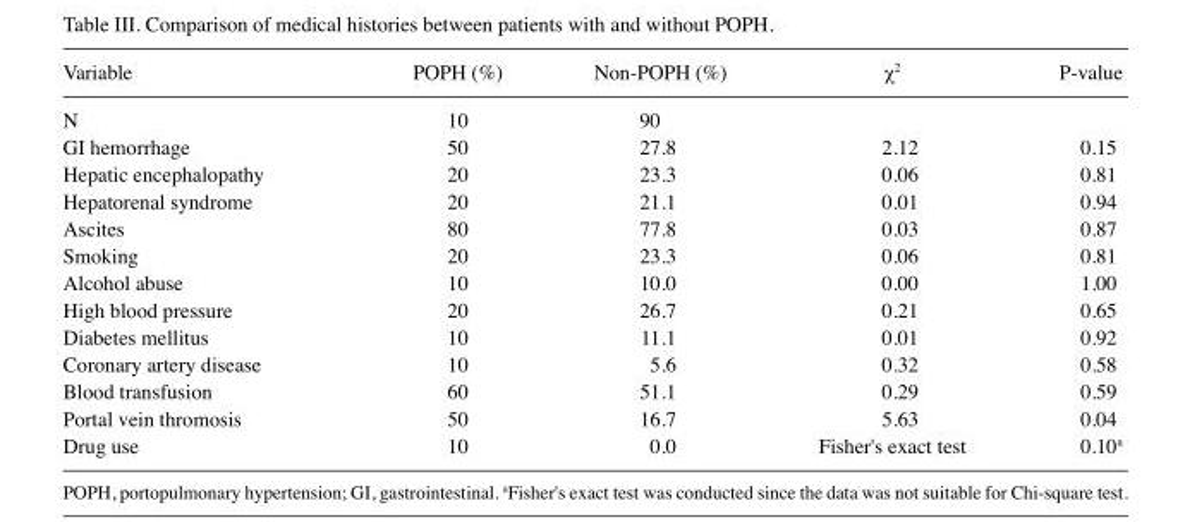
<table><thead><tr><td>Variable</td><td>POPH (%)</td><td>Non-POPH (%)</td><td>χ<sup>2</sup></td><td>P-value</td></tr></thead><tbody><tr><td>N</td><td>10</td><td>90</td><td></td><td></td></tr><tr><td>GI hemorrhage</td><td>50</td><td>27.8</td><td>2.12</td><td>0.15</td></tr><tr><td>Hepatic encephalopathy</td><td>20</td><td>23.3</td><td>0.06</td><td>0.81</td></tr><tr><td>Hepatorenal syndrome</td><td>20</td><td>21.1</td><td>0.01</td><td>0.94</td></tr><tr><td>Ascites</td><td>80</td><td>77.8</td><td>0.03</td><td>0.87</td></tr><tr><td>Smoking</td><td>20</td><td>23.3</td><td>0.06</td><td>0.81</td></tr><tr><td>Alcohol abuse</td><td>10</td><td>10.0</td><td>0.00</td><td>1.00</td></tr><tr><td>High blood pressure</td><td>20</td><td>26.7</td><td>0.21</td><td>0.65</td></tr><tr><td>Diabetes mellitus</td><td>10</td><td>11.1</td><td>0.01</td><td>0.92</td></tr><tr><td>Coronary artery disease</td><td>10</td><td>5.6</td><td>0.32</td><td>0.58</td></tr><tr><td>Blood transfusion</td><td>60</td><td>51.1</td><td>0.29</td><td>0.59</td></tr><tr><td>Portal vein thromosis</td><td>50</td><td>16.7</td><td>5.63</td><td>0.04</td></tr><tr><td>Drug use</td><td>10</td><td>0.0</td><td>Fisher&#x27;s exact test</td><td>0.10<sup>a</sup></td></tr></tbody></table>